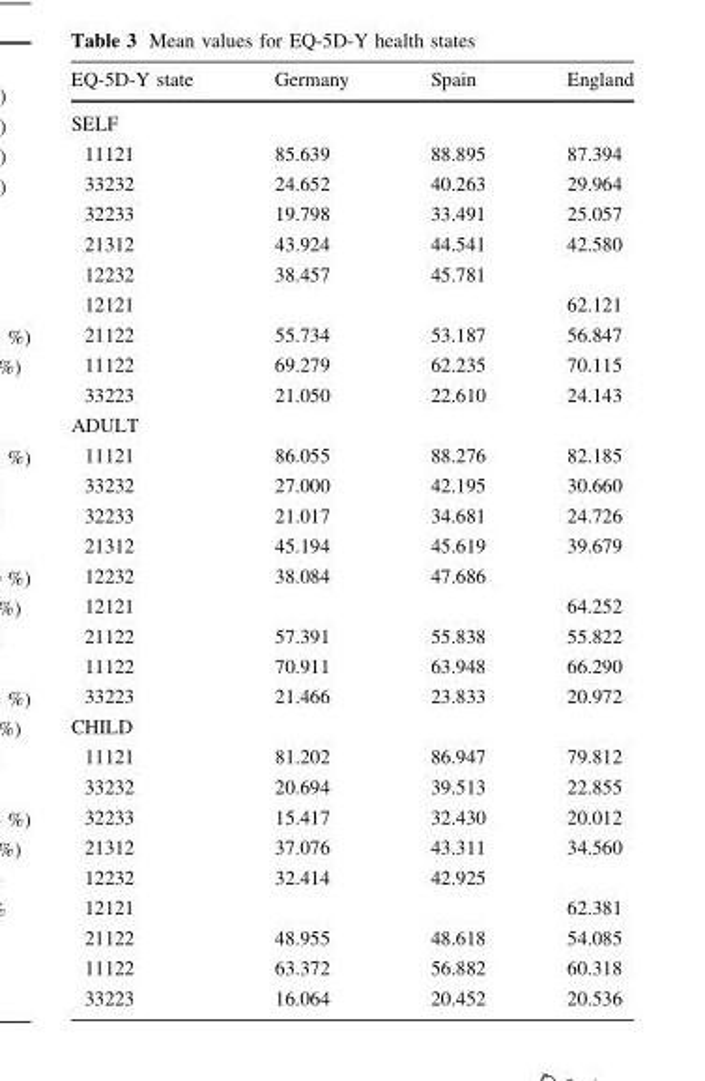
<table><thead><tr><td>EQ-5D-Y state</td><td>Germany</td><td>Spain</td><td>England</td></tr></thead><tbody><tr><td colspan="4">SELF</td></tr><tr><td>11121</td><td>85.639</td><td>88.895</td><td>87.394</td></tr><tr><td>33232</td><td>24.652</td><td>40.263</td><td>29.964</td></tr><tr><td>32233</td><td>19.798</td><td>33.491</td><td>25.057</td></tr><tr><td>21312</td><td>43.924</td><td>44.541</td><td>42.580</td></tr><tr><td>12232</td><td>38.457</td><td>45.781</td><td></td></tr><tr><td>12121</td><td></td><td></td><td>62.121</td></tr><tr><td>21122</td><td>55.734</td><td>53.187</td><td>56.847</td></tr><tr><td>11122</td><td>69.279</td><td>62.235</td><td>70.115</td></tr><tr><td>33223</td><td>21.050</td><td>22.610</td><td>24.143</td></tr><tr><td colspan="4">ADULT</td></tr><tr><td>11121</td><td>86.055</td><td>88.276</td><td>82.185</td></tr><tr><td>33232</td><td>27.000</td><td>42.195</td><td>30.660</td></tr><tr><td>32233</td><td>21.017</td><td>34.681</td><td>24.726</td></tr><tr><td>21312</td><td>45.194</td><td>45.619</td><td>39.679</td></tr><tr><td>12232</td><td>38.084</td><td>47.686</td><td></td></tr><tr><td>12121</td><td></td><td></td><td>64.252</td></tr><tr><td>21122</td><td>57.391</td><td>55.838</td><td>55.822</td></tr><tr><td>11122</td><td>70.911</td><td>63.948</td><td>66.290</td></tr><tr><td>33223</td><td>21.466</td><td>23.833</td><td>20.972</td></tr><tr><td colspan="4">CHILD</td></tr><tr><td>11121</td><td>81.202</td><td>86.947</td><td>79.812</td></tr><tr><td>33232</td><td>20.694</td><td>39.513</td><td>22.855</td></tr><tr><td>32233</td><td>15.417</td><td>32.430</td><td>20.012</td></tr><tr><td>21312</td><td>37.076</td><td>43.311</td><td>34.560</td></tr><tr><td>12232</td><td>32.414</td><td>42.925</td><td></td></tr><tr><td>12121</td><td></td><td></td><td>62.381</td></tr><tr><td>21122</td><td>48.955</td><td>48.618</td><td>54.085</td></tr><tr><td>11122</td><td>63.372</td><td>56.882</td><td>60.318</td></tr><tr><td>33223</td><td>16.064</td><td>20.452</td><td>20.536</td></tr></tbody></table>